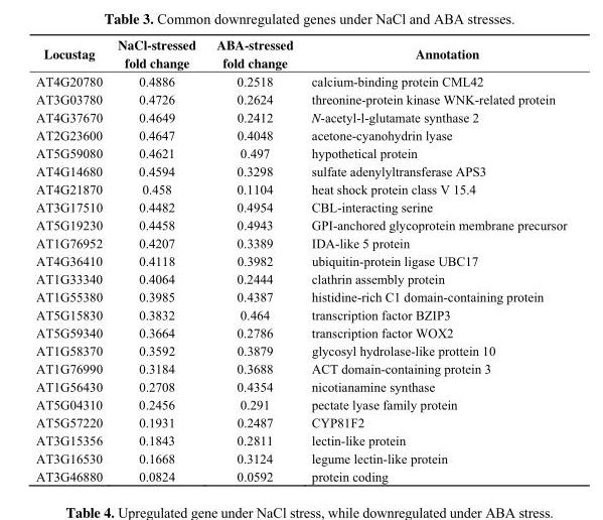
<table><thead><tr><td>Locustag</td><td>NaCl-stressed fold change</td><td>ABA-stressed fold change</td><td>Annotation</td></tr></thead><tbody><tr><td>AT4G20780</td><td>0.4886</td><td>0.2518</td><td>calcium-binding protein CML42</td></tr><tr><td>AT3G03780</td><td>0.4726</td><td>0.2624</td><td>threonine-protein kinase WNK-related protein</td></tr><tr><td>AT4G37670</td><td>0.4649</td><td>0.2412</td><td>N-acetyl-l-glutamate synthase 2</td></tr><tr><td>AT2G23600</td><td>0.4647</td><td>0.4048</td><td>acetone-cyanohydrin lyase</td></tr><tr><td>AT5G59080</td><td>0.4621</td><td>0.497</td><td>hypothetical protein</td></tr><tr><td>AT4G14680</td><td>0.4594</td><td>0.3298</td><td>sulfate adenylyltransferase APS3</td></tr><tr><td>AT4G21870</td><td>0.458</td><td>0.1104</td><td>heat shock protein class V 15.4</td></tr><tr><td>AT3G17510</td><td>0.4482</td><td>0.4954</td><td>CBL-interacting serine</td></tr><tr><td>AT5G19230</td><td>0.4458</td><td>0.4943</td><td>GPI-anchored glycoprotein membrane precursor</td></tr><tr><td>AT1G76952</td><td>0.4207</td><td>0.3389</td><td>IDA-like 5 protein</td></tr><tr><td>AT4G36410</td><td>0.4118</td><td>0.3982</td><td>ubiquitin-protein ligase UBC17</td></tr><tr><td>AT1G33340</td><td>0.4064</td><td>0.2444</td><td>clathrin assembly protein</td></tr><tr><td>AT1G55380</td><td>0.3985</td><td>0.4387</td><td>histidine-rich C1 domain-containing protein</td></tr><tr><td>AT5G15830</td><td>0.3832</td><td>0.464</td><td>transcription factor BZIP3</td></tr><tr><td>AT5G59340</td><td>0.3664</td><td>0.2786</td><td>transcription factor WOX2</td></tr><tr><td>AT1G58370</td><td>0.3592</td><td>0.3879</td><td>glycosyl hydrolase-like prottein 10</td></tr><tr><td>AT1G76990</td><td>0.3184</td><td>0.3688</td><td>ACT domain-containing protein 3</td></tr><tr><td>AT1G56430</td><td>0.2708</td><td>0.4354</td><td>nicotianamine synthase</td></tr><tr><td>AT5G04310</td><td>0.2456</td><td>0.291</td><td>pectate lyase family protein</td></tr><tr><td>AT5G57220</td><td>0.1931</td><td>0.2487</td><td>CYP81F2</td></tr><tr><td>AT3G15356</td><td>0.1843</td><td>0.2811</td><td>lectin-like protein</td></tr><tr><td>AT3G16530</td><td>0.1668</td><td>0.3124</td><td>legume lectin-like protein</td></tr><tr><td>AT3G46880</td><td>0.0824</td><td>0.0592</td><td>protein coding</td></tr></tbody></table>